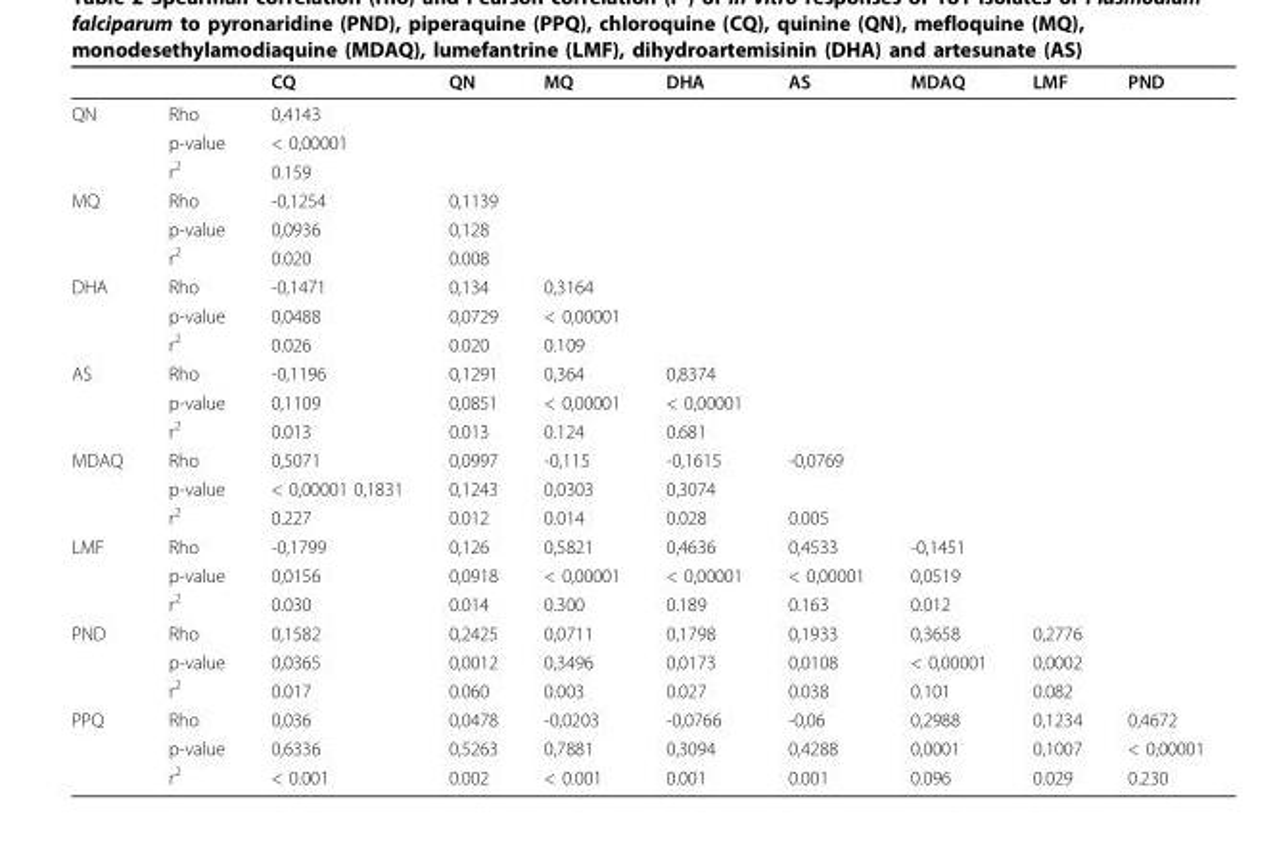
<table><thead><tr><td></td><td></td><td>CQ</td><td>QN</td><td>MQ</td><td>DHA</td><td>AS</td><td>MDAQ</td><td>LMF</td><td>PND</td></tr></thead><tbody><tr><td rowspan="3">QN</td><td>Rho</td><td>0,4143</td><td></td><td></td><td></td><td></td><td></td><td></td><td></td></tr><tr><td>p-value</td><td>&lt; 0,00001</td><td></td><td></td><td></td><td></td><td></td><td></td><td></td></tr><tr><td>r<sup>2</sup></td><td>0.159</td><td></td><td></td><td></td><td></td><td></td><td></td><td></td></tr><tr><td rowspan="3">MQ</td><td>Rho</td><td>-0,1254</td><td>0,1139</td><td></td><td></td><td></td><td></td><td></td><td></td></tr><tr><td>p-value</td><td>0,0936</td><td>0,128</td><td></td><td></td><td></td><td></td><td></td><td></td></tr><tr><td>r<sup>2</sup></td><td>0.020</td><td>0.008</td><td></td><td></td><td></td><td></td><td></td><td></td></tr><tr><td rowspan="3">DHA</td><td>Rho</td><td>-0,1471</td><td>0,134</td><td>0,3164</td><td></td><td></td><td></td><td></td><td></td></tr><tr><td>p-value</td><td>0,0488</td><td>0,0729</td><td>&lt; 0,00001</td><td></td><td></td><td></td><td></td><td></td></tr><tr><td>r<sup>2</sup></td><td>0.026</td><td>0.020</td><td>0.109</td><td></td><td></td><td></td><td></td><td></td></tr><tr><td rowspan="3">AS</td><td>Rho</td><td>-0,1196</td><td>0,1291</td><td>0,364</td><td>0,8374</td><td></td><td></td><td></td><td></td></tr><tr><td>p-value</td><td>0,1109</td><td>0,0851</td><td>&lt; 0,00001</td><td>&lt; 0,00001</td><td></td><td></td><td></td><td></td></tr><tr><td>r<sup>2</sup></td><td>0.013</td><td>0.013</td><td>0.124</td><td>0.681</td><td></td><td></td><td></td><td></td></tr><tr><td rowspan="3">MDAQ</td><td>Rho</td><td>0,5071</td><td>0,0997</td><td>-0,115</td><td>-0,1615</td><td>-0,0769</td><td></td><td></td><td></td></tr><tr><td>p-value</td><td>&lt; 0,00001 0,1831</td><td>0,1243</td><td>0,0303</td><td>0,3074</td><td></td><td></td><td></td><td></td></tr><tr><td>r<sup>2</sup></td><td>0.227</td><td>0.012</td><td>0.014</td><td>0.028</td><td>0.005</td><td></td><td></td><td></td></tr><tr><td rowspan="3">LMF</td><td>Rho</td><td>-0,1799</td><td>0,126</td><td>0,5821</td><td>0,4636</td><td>0,4533</td><td>-0,1451</td><td></td><td></td></tr><tr><td>p-value</td><td>0,0156</td><td>0,0918</td><td>&lt; 0,00001</td><td>&lt; 0,00001</td><td>&lt; 0,00001</td><td>0,0519</td><td></td><td></td></tr><tr><td>r<sup>2</sup></td><td>0.030</td><td>0.014</td><td>0.300</td><td>0.189</td><td>0.163</td><td>0.012</td><td></td><td></td></tr><tr><td rowspan="3">PND</td><td>Rho</td><td>0,1582</td><td>0,2425</td><td>0,0711</td><td>0,1798</td><td>0,1933</td><td>0,3658</td><td>0,2776</td><td></td></tr><tr><td>p-value</td><td>0,0365</td><td>0,0012</td><td>0,3496</td><td>0,0173</td><td>0,0108</td><td>&lt; 0,00001</td><td>0,0002</td><td></td></tr><tr><td>r<sup>2</sup></td><td>0.017</td><td>0.060</td><td>0.003</td><td>0.027</td><td>0.038</td><td>0.101</td><td>0.082</td><td></td></tr><tr><td rowspan="3">PPQ</td><td>Rho</td><td>0,036</td><td>0,0478</td><td>-0,0203</td><td>-0,0766</td><td>-0,06</td><td>0,2988</td><td>0,1234</td><td>0,4672</td></tr><tr><td>p-value</td><td>0,6336</td><td>0,5263</td><td>0,7881</td><td>0,3094</td><td>0,4288</td><td>0,0001</td><td>0,1007</td><td>&lt; 0,00001</td></tr><tr><td>r<sup>2</sup></td><td>&lt; 0.001</td><td>0.002</td><td>&lt; 0.001</td><td>0.001</td><td>0.001</td><td>0.096</td><td>0.029</td><td>0.230</td></tr></tbody></table>